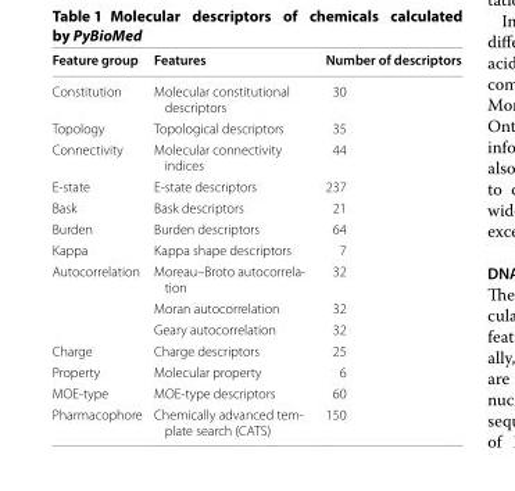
<table><thead><tr><td>Feature group</td><td>Features</td><td>Number of descriptors</td></tr></thead><tbody><tr><td>Constitution</td><td>Molecular constitutional descriptors</td><td>30</td></tr><tr><td>Topology</td><td>Topological descriptors</td><td>35</td></tr><tr><td>Connectivity</td><td>Molecular connectivity indices</td><td>44</td></tr><tr><td>E‑state</td><td>E‑state descriptors</td><td>237</td></tr><tr><td>Bask</td><td>Bask descriptors</td><td>21</td></tr><tr><td>Burden</td><td>Burden descriptors</td><td>64</td></tr><tr><td>Kappa</td><td>Kappa shape descriptors</td><td>7</td></tr><tr><td rowspan="3">Autocorrelation</td><td>Moreau–Broto autocorrela‑ tion</td><td>32</td></tr><tr><td>Moran autocorrelation</td><td>32</td></tr><tr><td>Geary autocorrelation</td><td>32</td></tr><tr><td>Charge</td><td>Charge descriptors</td><td>25</td></tr><tr><td>Property</td><td>Molecular property</td><td>6</td></tr><tr><td>MOE‑type</td><td>MOE‑type descriptors</td><td>60</td></tr><tr><td>Pharmacophore</td><td>Chemically advanced tem‑ plate search (CATS)</td><td>150</td></tr></tbody></table>